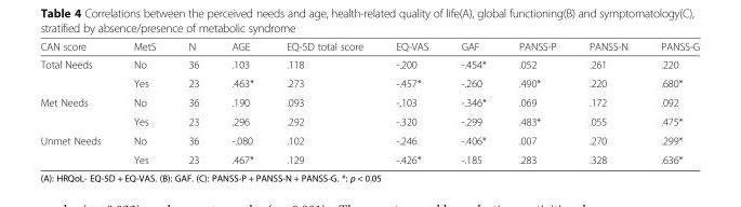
<table><thead><tr><td>CAN score</td><td>MetS</td><td>N</td><td>AGE</td><td>EQ-5D total score</td><td>EQ-VAS</td><td>GAF</td><td>PANSS-P</td><td>PANSS-N</td><td>PANSS-G</td></tr></thead><tbody><tr><td rowspan="2">Total Needs</td><td>No</td><td>36</td><td>.103</td><td>.118</td><td>-.200</td><td>-.454*</td><td>.052</td><td>.261</td><td>.220</td></tr><tr><td>Yes</td><td>23</td><td>.463*</td><td>.273</td><td>-.457*</td><td>-.260</td><td>.490*</td><td>.220</td><td>.680*</td></tr><tr><td rowspan="2">Met Needs</td><td>No</td><td>36</td><td>.190</td><td>.093</td><td>-.103</td><td>-.346*</td><td>.069</td><td>.172</td><td>.092</td></tr><tr><td>Yes</td><td>23</td><td>.296</td><td>.292</td><td>-.320</td><td>-.299</td><td>.483*</td><td>.055</td><td>.475*</td></tr><tr><td rowspan="2">Unmet Needs</td><td>No</td><td>36</td><td>-.080</td><td>.102</td><td>-.246</td><td>-.406*</td><td>.007</td><td>.270</td><td>.299*</td></tr><tr><td>Yes</td><td>23</td><td>.467*</td><td>.129</td><td>-.426*</td><td>-.185</td><td>.283</td><td>.328</td><td>.636*</td></tr></tbody></table>